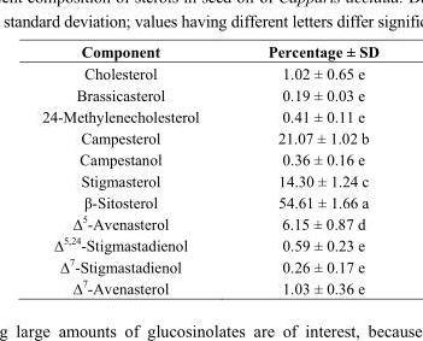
<table><thead><tr><td>Component</td><td>Percentage ± SD</td></tr></thead><tbody><tr><td>Cholesterol</td><td>1.02 ± 0.65 e</td></tr><tr><td>Brassicasterol</td><td>0.19 ± 0.03 e</td></tr><tr><td>24-Methylenecholesterol</td><td>0.41 ± 0.11 e</td></tr><tr><td>Campesterol</td><td>21.07 ± 1.02 b</td></tr><tr><td>Campestanol</td><td>0.36 ± 0.16 e</td></tr><tr><td>Stigmasterol</td><td>14.30 ± 1.24 c</td></tr><tr><td>β-Sitosterol</td><td>54.61 ± 1.66 a</td></tr><tr><td>Δ<sup>5</sup>-Avenasterol</td><td>6.15 ± 0.87 d</td></tr><tr><td>Δ<sup>5,24</sup>-Stigmastadienol</td><td>0.59 ± 0.23 e</td></tr><tr><td>Δ<sup>7</sup>-Stigmastadienol</td><td>0.26 ± 0.17 e</td></tr><tr><td>Δ<sup>7</sup>-Avenasterol</td><td>1.03 ± 0.36 e</td></tr></tbody></table>